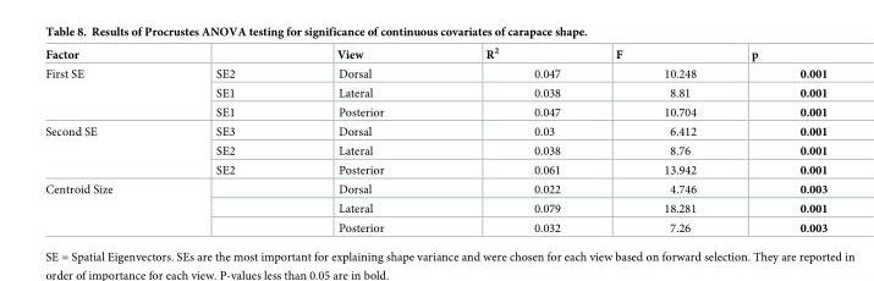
<table><thead><tr><td>Factor</td><td></td><td>View</td><td>R<sup>2</sup></td><td>F</td><td>p</td></tr></thead><tbody><tr><td rowspan="3">First SE</td><td>SE2</td><td>Dorsal</td><td>0.047</td><td>10.248</td><td>0.001</td></tr><tr><td>SE1</td><td>Lateral</td><td>0.038</td><td>8.81</td><td>0.001</td></tr><tr><td>SE1</td><td>Posterior</td><td>0.047</td><td>10.704</td><td>0.001</td></tr><tr><td rowspan="3">Second SE</td><td>SE3</td><td>Dorsal</td><td>0.03</td><td>6.412</td><td>0.001</td></tr><tr><td>SE2</td><td>Lateral</td><td>0.038</td><td>8.76</td><td>0.001</td></tr><tr><td>SE2</td><td>Posterior</td><td>0.061</td><td>13.942</td><td>0.001</td></tr><tr><td rowspan="3">Centroid Size</td><td></td><td>Dorsal</td><td>0.022</td><td>4.746</td><td>0.003</td></tr><tr><td></td><td>Lateral</td><td>0.079</td><td>18.281</td><td>0.001</td></tr><tr><td></td><td>Posterior</td><td>0.032</td><td>7.26</td><td>0.003</td></tr></tbody></table>